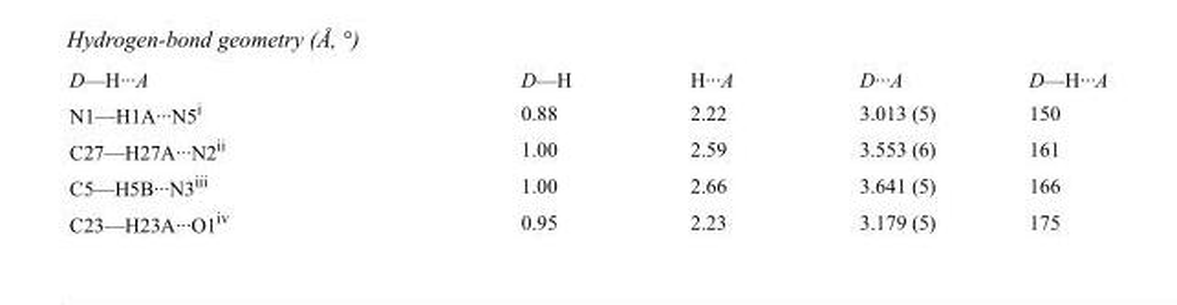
<table><tbody><tr><td>D—H···A</td><td>D—H</td><td>H···A</td><td>D···A</td><td>D—H···A</td></tr><tr><td>N1—H1A···N5<sup>i</sup></td><td>0.88</td><td>2.22</td><td>3.013 (5)</td><td>150</td></tr><tr><td>C27—H27A···N2<sup>ii</sup></td><td>1.00</td><td>2.59</td><td>3.553 (6)</td><td>161</td></tr><tr><td>C5—H5B···N3<sup>iii</sup></td><td>1.00</td><td>2.66</td><td>3.641 (5)</td><td>166</td></tr><tr><td>C23—H23A···O1<sup>iv</sup></td><td>0.95</td><td>2.23</td><td>3.179 (5)</td><td>175</td></tr></tbody></table>